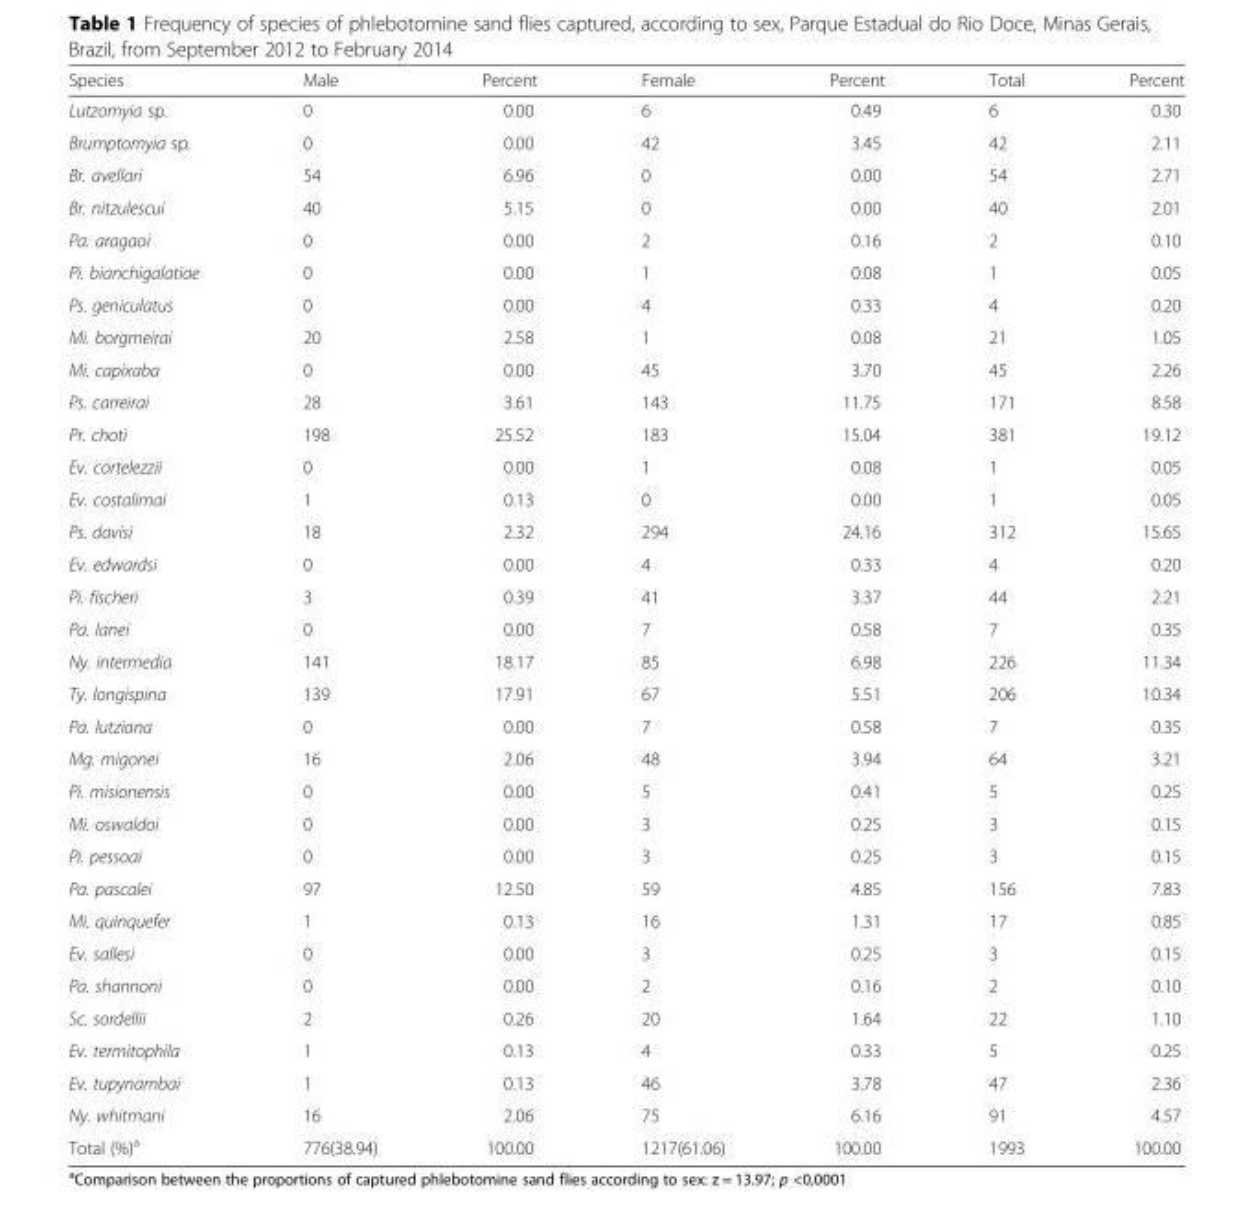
<table><thead><tr><td>Species</td><td>Male</td><td>Percent</td><td>Female</td><td>Percent</td><td>Total</td><td>Percent</td></tr></thead><tbody><tr><td>Lutzomyia sp.</td><td>0</td><td>0.00</td><td>6</td><td>0.49</td><td>6</td><td>0.30</td></tr><tr><td>Brumptomyia sp.</td><td>0</td><td>0.00</td><td>42</td><td>3.45</td><td>42</td><td>2.11</td></tr><tr><td>Br. avellari</td><td>54</td><td>6.96</td><td>0</td><td>0.00</td><td>54</td><td>2.71</td></tr><tr><td>Br. nitzulescui</td><td>40</td><td>5.15</td><td>0</td><td>0.00</td><td>40</td><td>2.01</td></tr><tr><td>Pa. aragaoi</td><td>0</td><td>0.00</td><td>2</td><td>0.16</td><td>2</td><td>0.10</td></tr><tr><td>Pi. bianchigalatiae</td><td>0</td><td>0.00</td><td>1</td><td>0.08</td><td>1</td><td>0.05</td></tr><tr><td>Ps. geniculatus</td><td>0</td><td>0.00</td><td>4</td><td>0.33</td><td>4</td><td>0.20</td></tr><tr><td>Mi. borgmeirai</td><td>20</td><td>2.58</td><td>1</td><td>0.08</td><td>21</td><td>1.05</td></tr><tr><td>Mi. capixaba</td><td>0</td><td>0.00</td><td>45</td><td>3.70</td><td>45</td><td>2.26</td></tr><tr><td>Ps. carreirai</td><td>28</td><td>3.61</td><td>143</td><td>11.75</td><td>171</td><td>8.58</td></tr><tr><td>Pr. choti</td><td>198</td><td>25.52</td><td>183</td><td>15.04</td><td>381</td><td>19.12</td></tr><tr><td>Ev. cortelezzii</td><td>0</td><td>0.00</td><td>1</td><td>0.08</td><td>1</td><td>0.05</td></tr><tr><td>Ev. costalimai</td><td>1</td><td>0.13</td><td>0</td><td>0.00</td><td>1</td><td>0.05</td></tr><tr><td>Ps. davisi</td><td>18</td><td>2.32</td><td>294</td><td>24.16</td><td>312</td><td>15.65</td></tr><tr><td>Ev. edwardsi</td><td>0</td><td>0.00</td><td>4</td><td>0.33</td><td>4</td><td>0.20</td></tr><tr><td>Pi. fischeri</td><td>3</td><td>0.39</td><td>41</td><td>3.37</td><td>44</td><td>2.21</td></tr><tr><td>Pa. lanei</td><td>0</td><td>0.00</td><td>7</td><td>0.58</td><td>7</td><td>0.35</td></tr><tr><td>Ny. intermedia</td><td>141</td><td>18.17</td><td>85</td><td>6.98</td><td>226</td><td>11.34</td></tr><tr><td>Ty. longispina</td><td>139</td><td>17.91</td><td>67</td><td>5.51</td><td>206</td><td>10.34</td></tr><tr><td>Pa. lutziana</td><td>0</td><td>0.00</td><td>7</td><td>0.58</td><td>7</td><td>0.35</td></tr><tr><td>Mg. migonei</td><td>16</td><td>2.06</td><td>48</td><td>3.94</td><td>64</td><td>3.21</td></tr><tr><td>Pi. misionensis</td><td>0</td><td>0.00</td><td>5</td><td>0.41</td><td>5</td><td>0.25</td></tr><tr><td>Mi. oswaldoi</td><td>0</td><td>0.00</td><td>3</td><td>0.25</td><td>3</td><td>0.15</td></tr><tr><td>Pi. pessoai</td><td>0</td><td>0.00</td><td>3</td><td>0.25</td><td>3</td><td>0.15</td></tr><tr><td>Pa. pascalei</td><td>97</td><td>12.50</td><td>59</td><td>4.85</td><td>156</td><td>7.83</td></tr><tr><td>Mi. quinquefer</td><td>1</td><td>0.13</td><td>16</td><td>1.31</td><td>17</td><td>0.85</td></tr><tr><td>Ev. sallesi</td><td>0</td><td>0.00</td><td>3</td><td>0.25</td><td>3</td><td>0.15</td></tr><tr><td>Pa. shannoni</td><td>0</td><td>0.00</td><td>2</td><td>0.16</td><td>2</td><td>0.10</td></tr><tr><td>Sc. sordellii</td><td>2</td><td>0.26</td><td>20</td><td>1.64</td><td>22</td><td>1.10</td></tr><tr><td>Ev. termitophila</td><td>1</td><td>0.13</td><td>4</td><td>0.33</td><td>5</td><td>0.25</td></tr><tr><td>Ev. tupynambai</td><td>1</td><td>0.13</td><td>46</td><td>3.78</td><td>47</td><td>2.36</td></tr><tr><td>Ny. whitmani</td><td>16</td><td>2.06</td><td>75</td><td>6.16</td><td>91</td><td>4.57</td></tr><tr><td>Total (%)<sup>a</sup></td><td>776(38.94)</td><td>100.00</td><td>1217(61.06)</td><td>100.00</td><td>1993</td><td>100.00</td></tr></tbody></table>